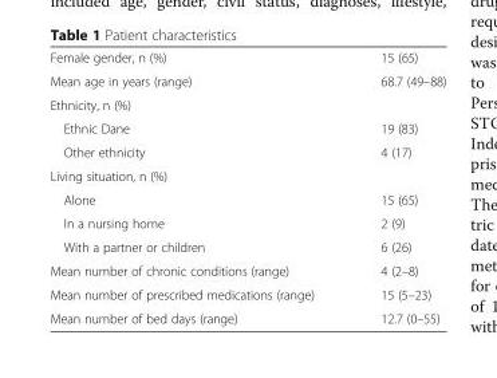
<table><tbody><tr><td>Female gender, n (%)</td><td>15 (65)</td></tr><tr><td>Mean age in years (range)</td><td>68.7 (49–88)</td></tr><tr><td colspan="2">Ethnicity, n (%)</td></tr><tr><td>Ethnic Dane</td><td>19 (83)</td></tr><tr><td>Other ethnicity</td><td>4 (17)</td></tr><tr><td colspan="2">Living situation, n (%)</td></tr><tr><td>Alone</td><td>15 (65)</td></tr><tr><td>In a nursing home</td><td>2 (9)</td></tr><tr><td>With a partner or children</td><td>6 (26)</td></tr><tr><td>Mean number of chronic conditions (range)</td><td>4 (2–8)</td></tr><tr><td>Mean number of prescribed medications (range)</td><td>15 (5–23)</td></tr><tr><td>Mean number of bed days (range)</td><td>12.7 (0–55)</td></tr></tbody></table>